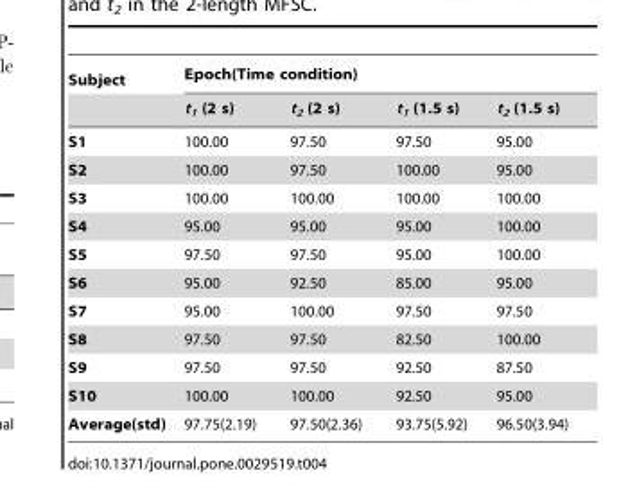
<table><thead><tr><td rowspan="2">Subject</td><td colspan="4">Epoch(Time condition)</td></tr><tr><td>t<sub>1</sub> (2 s)</td><td>t<sub>2</sub> (2 s)</td><td>t<sub>1</sub> (1.5 s)</td><td>t<sub>2</sub> (1.5 s)</td></tr></thead><tbody><tr><td>S1</td><td>100.00</td><td>97.50</td><td>97.50</td><td>95.00</td></tr><tr><td>S2</td><td>100.00</td><td>97.50</td><td>100.00</td><td>95.00</td></tr><tr><td>S3</td><td>100.00</td><td>100.00</td><td>100.00</td><td>100.00</td></tr><tr><td>S4</td><td>95.00</td><td>95.00</td><td>95.00</td><td>100.00</td></tr><tr><td>S5</td><td>97.50</td><td>97.50</td><td>95.00</td><td>100.00</td></tr><tr><td>S6</td><td>95.00</td><td>92.50</td><td>85.00</td><td>95.00</td></tr><tr><td>S7</td><td>95.00</td><td>100.00</td><td>97.50</td><td>97.50</td></tr><tr><td>S8</td><td>97.50</td><td>97.50</td><td>82.50</td><td>100.00</td></tr><tr><td>S9</td><td>97.50</td><td>97.50</td><td>92.50</td><td>87.50</td></tr><tr><td>S10</td><td>100.00</td><td>100.00</td><td>92.50</td><td>95.00</td></tr><tr><td>Average(std)</td><td>97.75(2.19)</td><td>97.50(2.36)</td><td>93.75(5.92)</td><td>96.50(3.94)</td></tr></tbody></table>